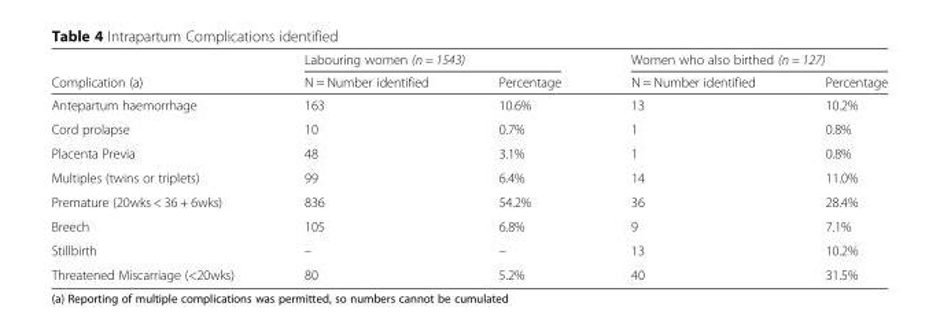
<table><thead><tr><td rowspan="2">Complication (a)</td><td colspan="2">Labouring women (n = 1543)</td><td colspan="2">Women who also birthed (n = 127)</td></tr><tr><td>N = Number identified</td><td>Percentage</td><td>N = Number identified</td><td>Percentage</td></tr></thead><tbody><tr><td>Antepartum haemorrhage</td><td>163</td><td>10.6%</td><td>13</td><td>10.2%</td></tr><tr><td>Cord prolapse</td><td>10</td><td>0.7%</td><td>1</td><td>0.8%</td></tr><tr><td>Placenta Previa</td><td>48</td><td>3.1%</td><td>1</td><td>0.8%</td></tr><tr><td>Multiples (twins or triplets)</td><td>99</td><td>6.4%</td><td>14</td><td>11.0%</td></tr><tr><td>Premature (20wks &lt; 36 + 6wks)</td><td>836</td><td>54.2%</td><td>36</td><td>28.4%</td></tr><tr><td>Breech</td><td>105</td><td>6.8%</td><td>9</td><td>7.1%</td></tr><tr><td>Stillbirth</td><td>–</td><td>–</td><td>13</td><td>10.2%</td></tr><tr><td>Threatened Miscarriage (&lt;20wks)</td><td>80</td><td>5.2%</td><td>40</td><td>31.5%</td></tr></tbody></table>